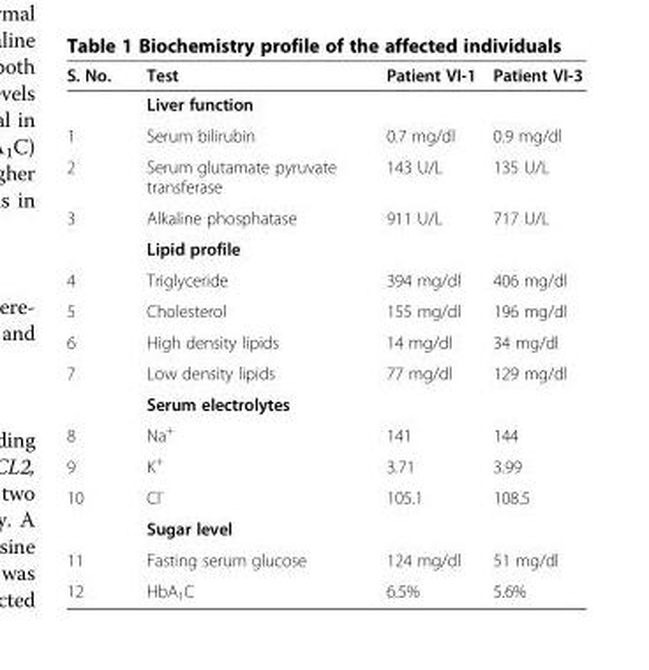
<table><thead><tr><td>S. No.</td><td>Test</td><td>Patient VI-1</td><td>Patient VI-3</td></tr></thead><tbody><tr><td></td><td>Liver function</td><td></td><td></td></tr><tr><td>1</td><td>Serum bilirubin</td><td>0.7 mg/dl</td><td>0.9 mg/dl</td></tr><tr><td>2</td><td>Serum glutamate pyruvate transferase</td><td>143 U/L</td><td>135 U/L</td></tr><tr><td rowspan="2">3</td><td>Alkaline phosphatase</td><td>911 U/L</td><td>717 U/L</td></tr><tr><td>Lipid profile</td><td></td><td></td></tr><tr><td>4</td><td>Triglyceride</td><td>394 mg/dl</td><td>406 mg/dl</td></tr><tr><td>5</td><td>Cholesterol</td><td>155 mg/dl</td><td>196 mg/dl</td></tr><tr><td>6</td><td>High density lipids</td><td>14 mg/dl</td><td>34 mg/dl</td></tr><tr><td rowspan="2">7</td><td>Low density lipids</td><td>77 mg/dl</td><td>129 mg/dl</td></tr><tr><td>Serum electrolytes</td><td></td><td></td></tr><tr><td>8</td><td>Na<sup>+</sup></td><td>141</td><td>144</td></tr><tr><td>9</td><td>K<sup>+</sup></td><td>3.71</td><td>3.99</td></tr><tr><td rowspan="2">10</td><td>Cl<sup>-</sup></td><td>105.1</td><td>108.5</td></tr><tr><td>Sugar level</td><td></td><td></td></tr><tr><td>11</td><td>Fasting serum glucose</td><td>124 mg/dl</td><td>51 mg/dl</td></tr><tr><td>12</td><td>HbA<sub>1</sub>C</td><td>6.5%</td><td>5.6%</td></tr></tbody></table>